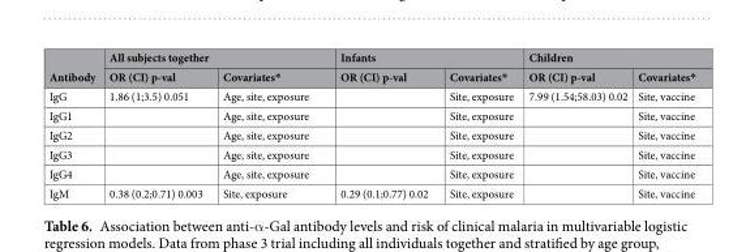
<table><thead><tr><td rowspan="2">Antibody</td><td colspan="2">All subjects together</td><td colspan="2">Infants</td><td colspan="2">Children</td></tr><tr><td>OR (CI) p-val</td><td>Covariates*</td><td>OR (CI) p-val</td><td>Covariates*</td><td>OR (CI) p-val</td><td>Covariates*</td></tr></thead><tbody><tr><td>IgG</td><td>1.86 (1;3.5) 0.051</td><td>Age, site, exposure</td><td></td><td>Site, exposure</td><td>7.99 (1.54;58.03) 0.02</td><td>Site, vaccine</td></tr><tr><td>IgG1</td><td></td><td>Age, site, exposure</td><td></td><td>Site, exposure</td><td></td><td>Site, vaccine</td></tr><tr><td>IgG2</td><td></td><td>Age, site, exposure</td><td></td><td>Site, exposure</td><td></td><td>Site, vaccine</td></tr><tr><td>IgG3</td><td></td><td>Age, site, exposure</td><td></td><td>Site, exposure</td><td></td><td>Site, vaccine</td></tr><tr><td>IgG4</td><td></td><td>Age, site, exposure</td><td></td><td>Site, exposure</td><td></td><td>Site, vaccine</td></tr><tr><td>IgM</td><td>0.38 (0.2;0.71) 0.003</td><td>Site, exposure</td><td>0.29 (0.1;0.77) 0.02</td><td>Site, exposure</td><td></td><td>Site, vaccine</td></tr></tbody></table>